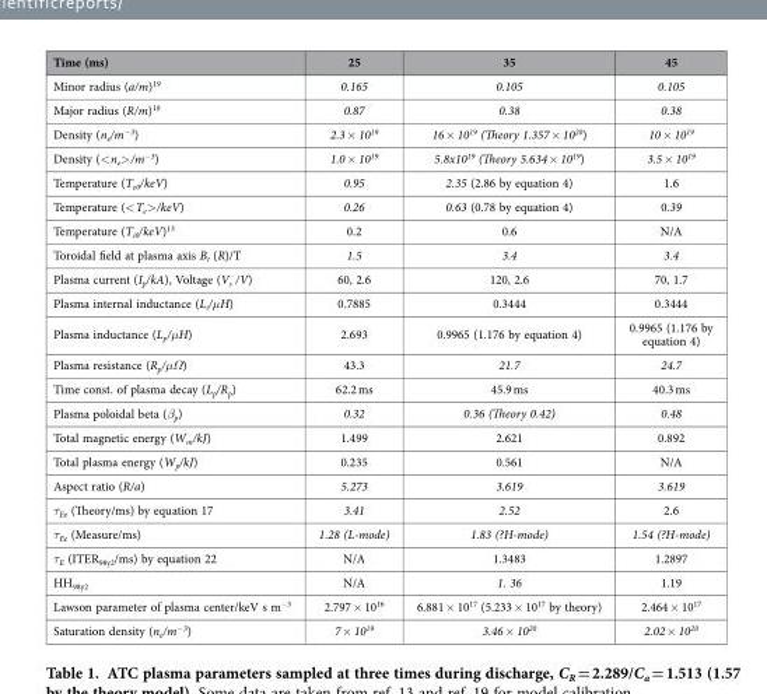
<table><thead><tr><td>Time (ms)</td><td>25</td><td>35</td><td>45</td></tr></thead><tbody><tr><td>Minor radius (a/m)<sup>19</sup></td><td>0.165</td><td>0.105</td><td>0.105</td></tr><tr><td>Major radius (R/m)<sup>19</sup></td><td>0.87</td><td>0.38</td><td>0.38</td></tr><tr><td>Density (n<sub>e</sub>/m<sup>−3</sup>)</td><td>2.3 × 10<sup>19</sup></td><td>16 × 10<sup>19</sup> (Theory 1.357 × 10<sup>20</sup>)</td><td>10 × 10<sup>19</sup></td></tr><tr><td>Density (&lt; n<sub>e</sub>&gt; /m<sup>−3</sup>)</td><td>1.0 × 10<sup>19</sup></td><td>5.8x10<sup>19</sup> (Theory 5.634 × 10<sup>19</sup>)</td><td>3.5 × 10<sup>19</sup></td></tr><tr><td>Temperature (T<sub>e0</sub>/keV)</td><td>0.95</td><td>2.35 (2.86 by equation 4)</td><td>1.6</td></tr><tr><td>Temperature (&lt; T<sub>e</sub>&gt; /keV)</td><td>0.26</td><td>0.63 (0.78 by equation 4)</td><td>0.39</td></tr><tr><td>Temperature (T<sub>i0</sub>/keV)<sup>13</sup></td><td>0.2</td><td>0.6</td><td>N/A</td></tr><tr><td>Toroidal field at plasma axis B<sub>t</sub> (R)/T</td><td>1.5</td><td>3.4</td><td>3.4</td></tr><tr><td>Plasma current (I<sub>p</sub>/kA), Voltage (V<sub>s</sub> /V)</td><td>60, 2.6</td><td>120, 2.6</td><td>70, 1.7</td></tr><tr><td>Plasma internal inductance (L<sub>i</sub>/μH)</td><td>0.7885</td><td>0.3444</td><td>0.3444</td></tr><tr><td>Plasma inductance (L<sub>p</sub>/μH)</td><td>2.693</td><td>0.9965 (1.176 by equation 4)</td><td>0.9965 (1.176 by equation 4)</td></tr><tr><td>Plasma resistance (R<sub>p</sub>/μΩ)</td><td>43.3</td><td>21.7</td><td>24.7</td></tr><tr><td>Time const. of plasma decay (L<sub>p</sub>/R<sub>p</sub>)</td><td>62.2 ms</td><td>45.9 ms</td><td>40.3 ms</td></tr><tr><td>Plasma poloidal beta (β<sub>p</sub>)</td><td>0.32</td><td>0.36 (Theory 0.42)</td><td>0.48</td></tr><tr><td>Total magnetic energy (W<sub>m</sub>/kJ)</td><td>1.499</td><td>2.621</td><td>0.892</td></tr><tr><td>Total plasma energy (W<sub>p</sub>/kJ)</td><td>0.235</td><td>0.561</td><td>N/A</td></tr><tr><td>Aspect ratio (R/a)</td><td>5.273</td><td>3.619</td><td>3.619</td></tr><tr><td>τ<sub>Ee</sub> (Theory/ms) by equation 17</td><td>3.41</td><td>2.52</td><td>2.6</td></tr><tr><td>τ<sub>Ee</sub> (Measure/ms)</td><td>1.28 (L-mode)</td><td>1.83 (?H-mode)</td><td>1.54 (?H-mode)</td></tr><tr><td>τ<sub>E</sub> (ITER<sub>98y2</sub>/ms) by equation 22</td><td>N/A</td><td>1.3483</td><td>1.2897</td></tr><tr><td>HH<sub>98y2</sub></td><td>N/A</td><td>1. 36</td><td>1.19</td></tr><tr><td>Lawson parameter of plasma center/keV s m<sup>−3</sup></td><td>2.797 × 10<sup>16</sup></td><td>6.881 × 10<sup>17</sup> (5.233 × 10<sup>17</sup> by theory)</td><td>2.464 × 10<sup>17</sup></td></tr><tr><td>Saturation density (n<sub>e</sub>/m<sup>−3</sup>)</td><td>7 × 10<sup>19</sup></td><td>3.46 × 10<sup>20</sup></td><td>2.02 × 10<sup>20</sup></td></tr></tbody></table>